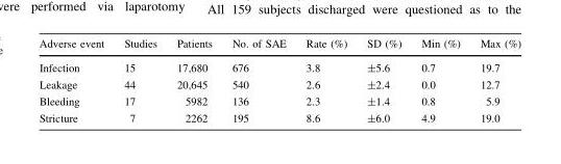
<table><thead><tr><td>Adverse event</td><td>Studies</td><td>Patients</td><td>No. of SAE</td><td>Rate (%)</td><td>SD (%)</td><td>Min (%)</td><td>Max (%)</td></tr></thead><tbody><tr><td>Infection</td><td>15</td><td>17,680</td><td>676</td><td>3.8</td><td>±5.6</td><td>0.7</td><td>19.7</td></tr><tr><td>Leakage</td><td>44</td><td>20,645</td><td>540</td><td>2.6</td><td>±2.4</td><td>0.0</td><td>12.7</td></tr><tr><td>Bleeding</td><td>17</td><td>5982</td><td>136</td><td>2.3</td><td>±1.4</td><td>0.8</td><td>5.9</td></tr><tr><td>Stricture</td><td>7</td><td>2262</td><td>195</td><td>8.6</td><td>±6.0</td><td>4.9</td><td>19.0</td></tr></tbody></table>